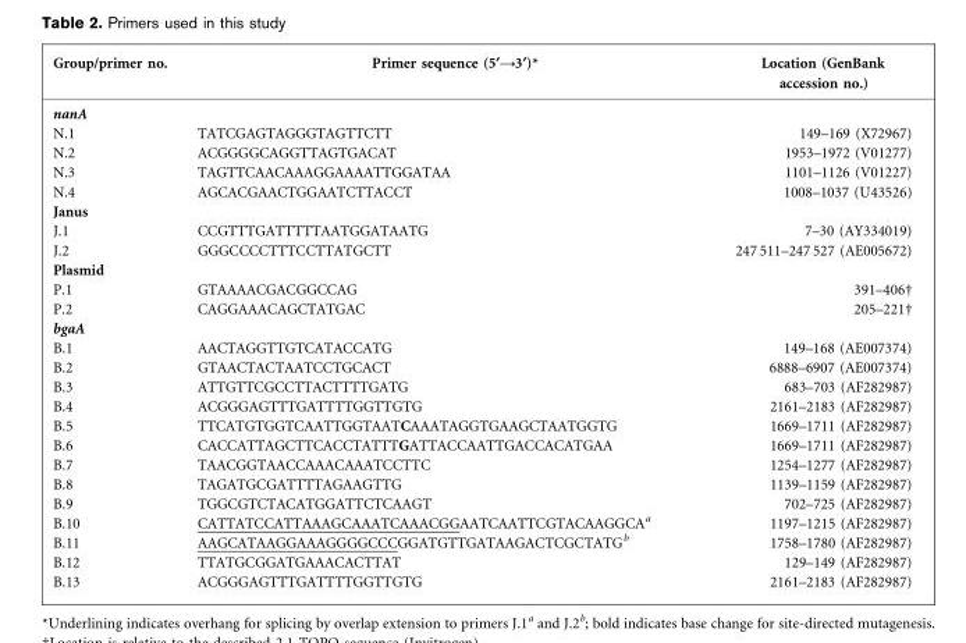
<table><thead><tr><td>Group/primer no.</td><td>Primer sequence (5§A3§)*</td><td>Location (GenBank accession no.)</td></tr></thead><tbody><tr><td colspan="3">nanA</td></tr><tr><td>N.1</td><td>TATCGAGTAGGGTAGTTCTT</td><td>149–169 (X72967)</td></tr><tr><td>N.2</td><td>ACGGGGCAGGTTAGTGACAT</td><td>1953–1972 (V01277)</td></tr><tr><td>N.3</td><td>TAGTTCAACAAAGGAAAATTGGATAA</td><td>1101–1126 (V01227)</td></tr><tr><td>N.4</td><td>AGCACGAACTGGAATCTTACCT</td><td>1008–1037 (U43526)</td></tr><tr><td colspan="3">Janus</td></tr><tr><td>J.1</td><td>CCGTTTGATTTTTAATGGATAATG</td><td>7–30 (AY334019)</td></tr><tr><td>J.2</td><td>GGGCCCCTTTCCTTATGCTT</td><td>247 511–247 527 (AE005672)</td></tr><tr><td colspan="3">Plasmid</td></tr><tr><td>P.1</td><td>GTAAAACGACGGCCAG</td><td>391–406†</td></tr><tr><td>P.2</td><td>CAGGAAACAGCTATGAC</td><td>205–221†</td></tr><tr><td colspan="3">bgaA</td></tr><tr><td>B.1</td><td>AACTAGGTTGTCATACCATG</td><td>149–168 (AE007374)</td></tr><tr><td>B.2</td><td>GTAACTACTAATCCTGCACT</td><td>6888–6907 (AE007374)</td></tr><tr><td>B.3</td><td>ATTGTTCGCCTTACTTTTGATG</td><td>683–703 (AF282987)</td></tr><tr><td>B.4</td><td>ACGGGAGTTTGATTTTGGTTGTG</td><td>2161–2183 (AF282987)</td></tr><tr><td>B.5</td><td>TTCATGTGGTCAATTGGTAATCAAATAGGTGAAGCTAATGGTG</td><td>1669–1711 (AF282987)</td></tr><tr><td>B.6</td><td>CACCATTAGCTTCACCTATTTGATTACCAATTGACCACATGAA</td><td>1669–1711 (AF282987)</td></tr><tr><td>B.7</td><td>TAACGGTAACCAAACAAATCCTTC</td><td>1254–1277 (AF282987)</td></tr><tr><td>B.8</td><td>TAGATGCGATTTTAGAAGTTG</td><td>1139–1159 (AF282987)</td></tr><tr><td>B.9</td><td>TGGCGTCTACATGGATTCTCAAGT</td><td>702–725 (AF282987)</td></tr><tr><td>B.10</td><td>CATTATCCATTAAAGCAAATCAAACGGAATCAATTCGTACAAGGCA<sup>a</sup></td><td>1197–1215 (AF282987)</td></tr><tr><td>B.11</td><td>AAGCATAAGGAAAGGGGCCCGGATGTTGATAAGACTCGCTATG<sup>b</sup></td><td>1758–1780 (AF282987)</td></tr><tr><td>B.12</td><td>TTATGCGGATGAAACACTTAT</td><td>129–149 (AF282987)</td></tr><tr><td>B.13</td><td>ACGGGAGTTTGATTTTGGTTGTG</td><td>2161–2183 (AF282987)</td></tr></tbody></table>